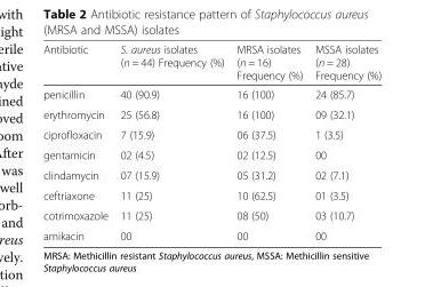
<table><thead><tr><td>Antibiotic</td><td>S. aureus isolates (n = 44) Frequency (%)</td><td>MRSA isolates (n = 16) Frequency (%)</td><td>MSSA isolates (n = 28) Frequency (%)</td></tr></thead><tbody><tr><td>penicillin</td><td>40 (90.9)</td><td>16 (100)</td><td>24 (85.7)</td></tr><tr><td>erythromycin</td><td>25 (56.8)</td><td>16 (100)</td><td>09 (32.1)</td></tr><tr><td>ciprofloxacin</td><td>7 (15.9)</td><td>06 (37.5)</td><td>1 (3.5)</td></tr><tr><td>gentamicin</td><td>02 (4.5)</td><td>02 (12.5)</td><td>00</td></tr><tr><td>clindamycin</td><td>07 (15.9)</td><td>05 (31.2)</td><td>02 (7.1)</td></tr><tr><td>ceftriaxone</td><td>11 (25)</td><td>10 (62.5)</td><td>01 (3.5)</td></tr><tr><td>cotrimoxazole</td><td>11 (25)</td><td>08 (50)</td><td>03 (10.7)</td></tr><tr><td>amikacin</td><td>00</td><td>00</td><td>00</td></tr></tbody></table>